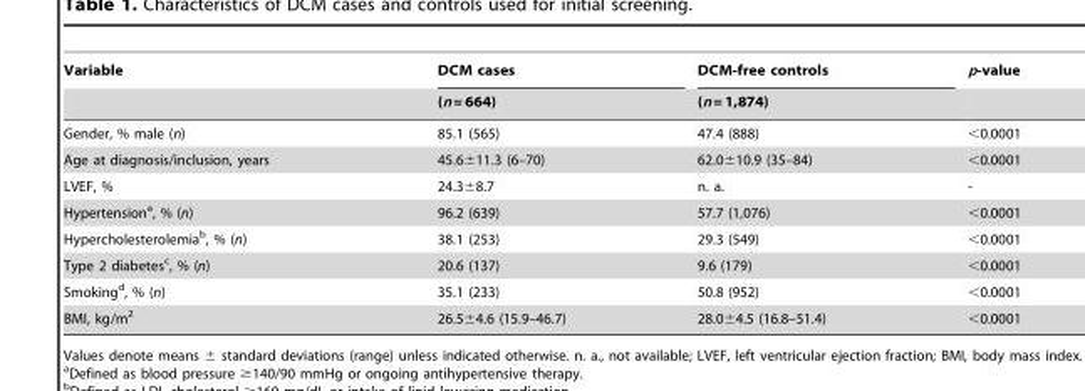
<table><thead><tr><td rowspan="2">Variable</td><td rowspan="2">DCM cases (n = 664)</td><td rowspan="2">DCM-free controls (n = 1,874)</td><td rowspan="2">p-value</td></tr><tr></tr></thead><tbody><tr><td>Gender, % male (n)</td><td>85.1 (565)</td><td>47.4 (888)</td><td>&lt;0.0001</td></tr><tr><td>Age at diagnosis/inclusion, years</td><td>45.6±11.3 (6–70)</td><td>62.0±10.9 (35–84)</td><td>&lt;0.0001</td></tr><tr><td>LVEF, %</td><td>24.3±8.7</td><td>n. a.</td><td>-</td></tr><tr><td>Hypertension<sup>a</sup>, % (n)</td><td>96.2 (639)</td><td>57.7 (1,076)</td><td>&lt;0.0001</td></tr><tr><td>Hypercholesterolemia<sup>b</sup>, % (n)</td><td>38.1 (253)</td><td>29.3 (549)</td><td>&lt;0.0001</td></tr><tr><td>Type 2 diabetes<sup>c</sup>, % (n)</td><td>20.6 (137)</td><td>9.6 (179)</td><td>&lt;0.0001</td></tr><tr><td>Smoking<sup>d</sup>, % (n)</td><td>35.1 (233)</td><td>50.8 (952)</td><td>&lt;0.0001</td></tr><tr><td>BMI, kg/m<sup>2</sup></td><td>26.5±4.6 (15.9–46.7)</td><td>28.0±4.5 (16.8–51.4)</td><td>&lt;0.0001</td></tr></tbody></table>